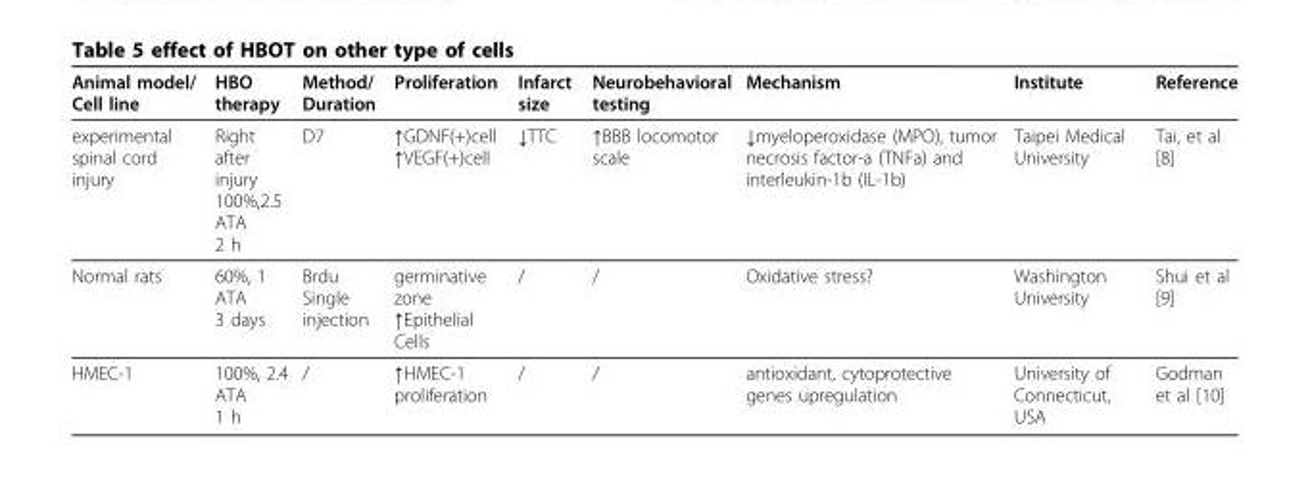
<table><thead><tr><td>Animal model/ Cell line</td><td>HBO therapy</td><td>Method/ Duration</td><td>Proliferation</td><td>Infarct size</td><td>Neurobehavioral testing</td><td>Mechanism</td><td>Institute</td><td>Reference</td></tr></thead><tbody><tr><td>experimental spinal cord injury</td><td>Right after injury 100%,2.5 ATA 2 h</td><td>D7</td><td>↑GDNF(+)cell ↑VEGF(+)cell</td><td>↓TTC</td><td>↑BBB locomotor scale</td><td>↓myeloperoxidase (MPO), tumor necrosis factor-a (TNFa) and interleukin-1b (IL-1b)</td><td>Taipei Medical University</td><td>Tai, et al [8]</td></tr><tr><td>Normal rats</td><td>60%, 1 ATA 3 days</td><td>Brdu Single injection</td><td>germinative zone ↑Epithelial Cells</td><td>/</td><td>/</td><td>Oxidative stress?</td><td>Washington University</td><td>Shui et al [9]</td></tr><tr><td>HMEC-1</td><td>100%, 2.4 ATA 1 h</td><td>/</td><td>↑HMEC-1 proliferation</td><td>/</td><td>/</td><td>antioxidant, cytoprotective genes upregulation</td><td>University of Connecticut, USA</td><td>Godman et al [10]</td></tr></tbody></table>